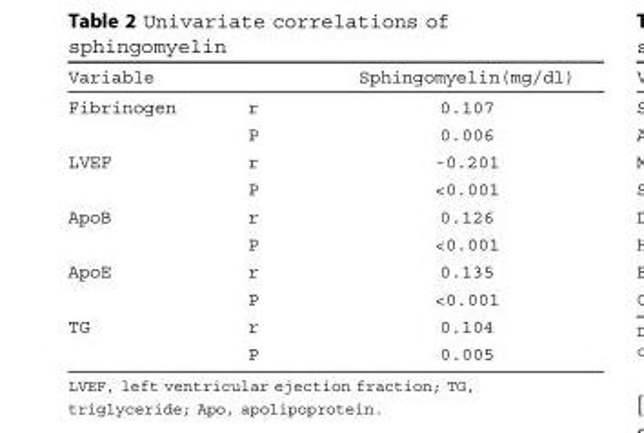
<table><thead><tr><td>Variable</td><td></td><td>Sphingomyelin(mg/dl)</td></tr></thead><tbody><tr><td rowspan="2">Fibrinogen</td><td>r</td><td>0.107</td></tr><tr><td>P</td><td>0.006</td></tr><tr><td rowspan="2">LVEF</td><td>r</td><td>-0.201</td></tr><tr><td>P</td><td>&lt;0.001</td></tr><tr><td rowspan="2">ApoB</td><td>r</td><td>0.126</td></tr><tr><td>P</td><td>&lt;0.001</td></tr><tr><td rowspan="2">ApoE</td><td>r</td><td>0.135</td></tr><tr><td>P</td><td>&lt;0.001</td></tr><tr><td rowspan="2">TG</td><td>r</td><td>0.104</td></tr><tr><td>P</td><td>0.005</td></tr></tbody></table>